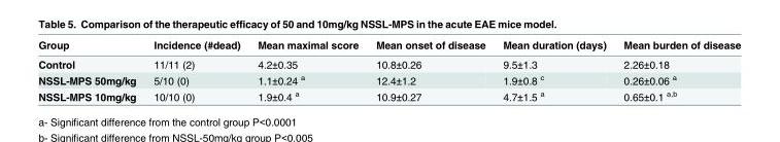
<table><thead><tr><td>Group</td><td>Incidence (#dead)</td><td>Mean maximal score</td><td>Mean onset of disease</td><td>Mean duration (days)</td><td>Mean burden of disease</td></tr></thead><tbody><tr><td>Control</td><td>11/11 (2)</td><td>4.2±0.35</td><td>10.8±0.26</td><td>9.5±1.3</td><td>2.26±0.18</td></tr><tr><td>NSSL-MPS 50mg/kg</td><td>5/10 (0)</td><td>1.1±0.24 <sup>a</sup></td><td>12.4±1.2</td><td>1.9±0.8 <sup>c</sup></td><td>0.26±0.06 <sup>a</sup></td></tr><tr><td>NSSL-MPS 10mg/kg</td><td>10/10 (0)</td><td>1.9±0.4 <sup>a</sup></td><td>10.9±0.27</td><td>4.7±1.5 <sup>a</sup></td><td>0.65±0.1 <sup>a,b</sup></td></tr></tbody></table>